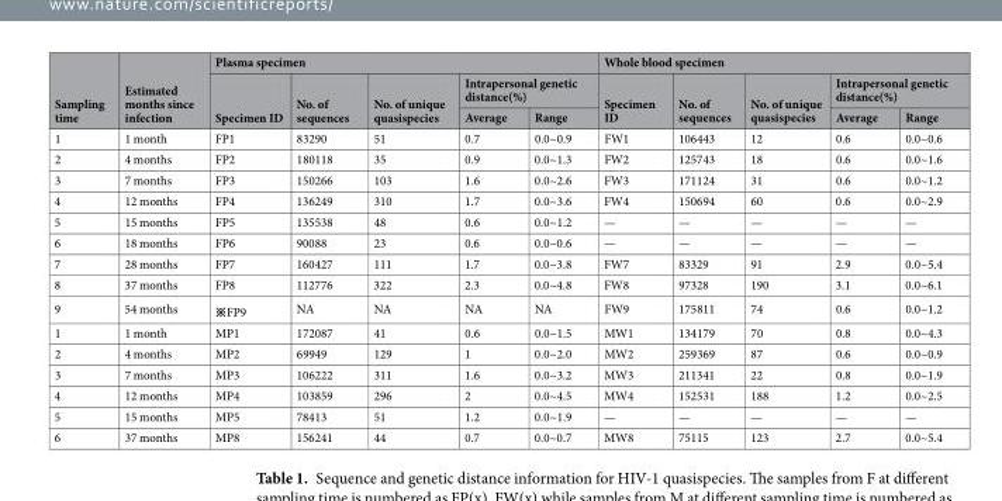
<table><thead><tr><td rowspan="3">Sampling time</td><td rowspan="3">Estimated months since infection</td><td colspan="5">Plasma specimen</td><td colspan="5">Whole blood specimen</td></tr><tr><td rowspan="2">Specimen ID</td><td rowspan="2">No. of sequences</td><td rowspan="2">No. of unique quasispecies</td><td colspan="2">Intrapersonal genetic distance(%)</td><td rowspan="2">Specimen ID</td><td rowspan="2">No. of sequences</td><td rowspan="2">No. of unique quasispecies</td><td colspan="2">Intrapersonal genetic distance(%)</td></tr><tr><td>Average</td><td>Range</td><td>Average</td><td>Range</td></tr></thead><tbody><tr><td>1</td><td>1 month</td><td>FP1</td><td>83290</td><td>51</td><td>0.7</td><td>0.0~0.9</td><td>FW1</td><td>106443</td><td>12</td><td>0.6</td><td>0.0~0.6</td></tr><tr><td>2</td><td>4 months</td><td>FP2</td><td>180118</td><td>35</td><td>0.9</td><td>0.0~1.3</td><td>FW2</td><td>125743</td><td>18</td><td>0.6</td><td>0.0~1.6</td></tr><tr><td>3</td><td>7 months</td><td>FP3</td><td>150266</td><td>103</td><td>1.6</td><td>0.0~2.6</td><td>FW3</td><td>171124</td><td>31</td><td>0.6</td><td>0.0~1.2</td></tr><tr><td>4</td><td>12 months</td><td>FP4</td><td>136249</td><td>310</td><td>1.7</td><td>0.0~3.6</td><td>FW4</td><td>150694</td><td>60</td><td>0.6</td><td>0.0~2.9</td></tr><tr><td>5</td><td>15 months</td><td>FP5</td><td>135538</td><td>48</td><td>0.6</td><td>0.0~1.2</td><td>—</td><td>—</td><td>—</td><td>—</td><td>—</td></tr><tr><td>6</td><td>18 months</td><td>FP6</td><td>90088</td><td>23</td><td>0.6</td><td>0.0~0.6</td><td>—</td><td>—</td><td>—</td><td>—</td><td>—</td></tr><tr><td>7</td><td>28 months</td><td>FP7</td><td>160427</td><td>111</td><td>1.7</td><td>0.0~3.8</td><td>FW7</td><td>83329</td><td>91</td><td>2.9</td><td>0.0~5.4</td></tr><tr><td>8</td><td>37 months</td><td>FP8</td><td>112776</td><td>322</td><td>2.3</td><td>0.0~4.8</td><td>FW8</td><td>97328</td><td>190</td><td>3.1</td><td>0.0~6.1</td></tr><tr><td>9</td><td>54 months</td><td>※FP9</td><td>NA</td><td>NA</td><td>NA</td><td>NA</td><td>FW9</td><td>175811</td><td>74</td><td>0.6</td><td>0.0~1.2</td></tr><tr><td>1</td><td>1 month</td><td>MP1</td><td>172087</td><td>41</td><td>0.6</td><td>0.0~1.5</td><td>MW1</td><td>134179</td><td>70</td><td>0.8</td><td>0.0~4.3</td></tr><tr><td>2</td><td>4 months</td><td>MP2</td><td>69949</td><td>129</td><td>1</td><td>0.0~2.0</td><td>MW2</td><td>259369</td><td>87</td><td>0.6</td><td>0.0~0.9</td></tr><tr><td>3</td><td>7 months</td><td>MP3</td><td>106222</td><td>311</td><td>1.6</td><td>0.0~3.2</td><td>MW3</td><td>211341</td><td>22</td><td>0.8</td><td>0.0~1.9</td></tr><tr><td>4</td><td>12 months</td><td>MP4</td><td>103859</td><td>296</td><td>2</td><td>0.0~4.5</td><td>MW4</td><td>152531</td><td>188</td><td>1.2</td><td>0.0~2.5</td></tr><tr><td>5</td><td>15 months</td><td>MP5</td><td>78413</td><td>51</td><td>1.2</td><td>0.0~1.9</td><td>—</td><td>—</td><td>—</td><td>—</td><td>—</td></tr><tr><td>6</td><td>37 months</td><td>MP8</td><td>156241</td><td>44</td><td>0.7</td><td>0.0~0.7</td><td>MW8</td><td>75115</td><td>123</td><td>2.7</td><td>0.0~5.4</td></tr></tbody></table>